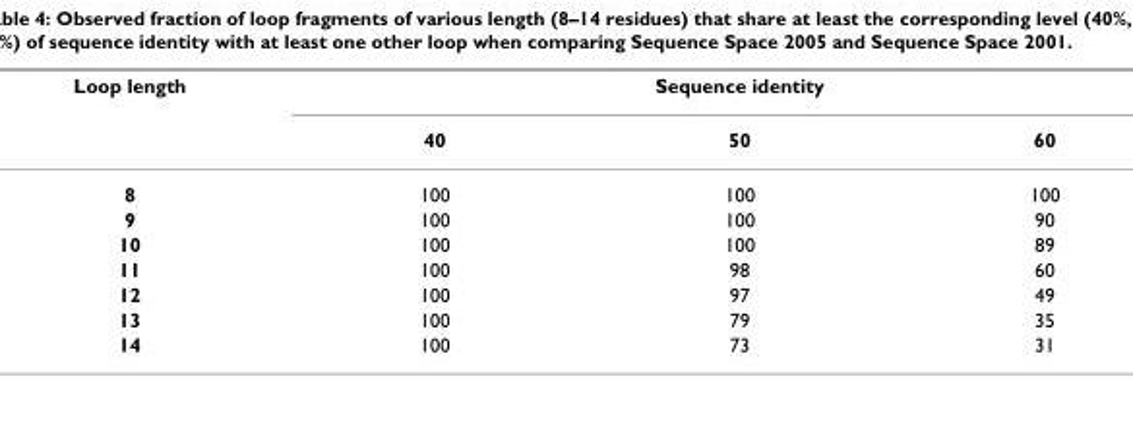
<table><thead><tr><td rowspan="2">Loop length</td><td colspan="3">Sequence identity</td></tr><tr><td>40</td><td>50</td><td>60</td></tr></thead><tbody><tr><td>8</td><td>100</td><td>100</td><td>100</td></tr><tr><td>9</td><td>100</td><td>100</td><td>90</td></tr><tr><td>10</td><td>100</td><td>100</td><td>89</td></tr><tr><td>11</td><td>100</td><td>98</td><td>60</td></tr><tr><td>12</td><td>100</td><td>97</td><td>49</td></tr><tr><td>13</td><td>100</td><td>79</td><td>35</td></tr><tr><td>14</td><td>100</td><td>73</td><td>31</td></tr></tbody></table>